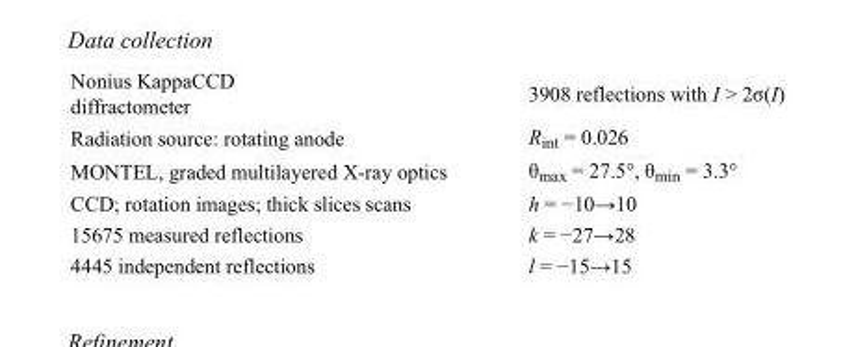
<table><tbody><tr><td>Nonius KappaCCD diffractometer</td><td>3908 reflections with I &gt; 2σ(I)</td></tr><tr><td>Radiation source: rotating anode</td><td>R<sub>int</sub> = 0.026</td></tr><tr><td>MONTEL, graded multilayered X-ray optics</td><td>θ<sub>max</sub> = 27.5°, θ<sub>min</sub> = 3.3°</td></tr><tr><td>CCD; rotation images; thick slices scans</td><td>h = −10→10</td></tr><tr><td>15675 measured reflections</td><td>k = −27→28</td></tr><tr><td>4445 independent reflections</td><td>l = −15→15</td></tr></tbody></table>